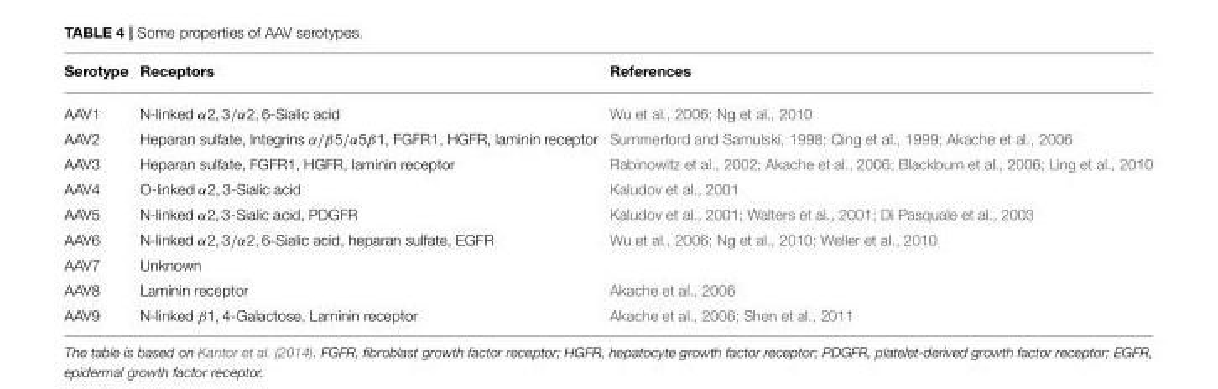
<table><thead><tr><td>Serotype</td><td>Receptors</td><td>References</td></tr></thead><tbody><tr><td>AAV1</td><td>N-linked α2, 3/α2, 6-Sialic acid</td><td>Wu et al., 2006; Ng et al., 2010</td></tr><tr><td>AAV2</td><td>Heparan sulfate, Integrins α/β5/α5β1, FGFR1, HGFR, laminin receptor</td><td>Summerford and Samulski, 1998; Qing et al., 1999; Akache et al., 2006</td></tr><tr><td>AAV3</td><td>Heparan sulfate, FGFR1, HGFR, laminin receptor</td><td>Rabinowitz et al., 2002; Akache et al., 2006; Blackburn et al., 2006; Ling et al., 2010</td></tr><tr><td>AAV4</td><td>O-linked α2, 3-Sialic acid</td><td>Kaludov et al., 2001</td></tr><tr><td>AAV5</td><td>N-linked α2, 3-Sialic acid, PDGFR</td><td>Kaludov et al., 2001; Walters et al., 2001; Di Pasquale et al., 2003</td></tr><tr><td>AAV6</td><td>N-linked α2, 3/α2, 6-Sialic acid, heparan sulfate, EGFR</td><td>Wu et al., 2006; Ng et al., 2010; Weller et al., 2010</td></tr><tr><td>AAV7</td><td>Unknown</td><td></td></tr><tr><td>AAV8</td><td>Laminin receptor</td><td>Akache et al., 2006</td></tr><tr><td>AAV9</td><td>N-linked β1, 4-Galactose, Laminin receptor</td><td>Akache et al., 2006; Shen et al., 2011</td></tr></tbody></table>